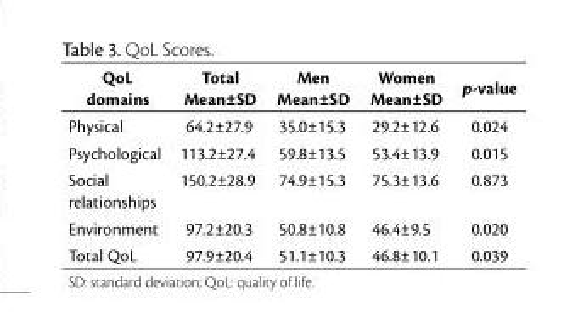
<table><thead><tr><td>QoL domains</td><td>Total Mean±SD</td><td>Men Mean±SD</td><td>Women Mean±SD</td><td>p-value</td></tr></thead><tbody><tr><td>Physical</td><td>64.2±27.9</td><td>35.0±15.3</td><td>29.2±12.6</td><td>0.024</td></tr><tr><td>Psychological</td><td>113.2±27.4</td><td>59.8±13.5</td><td>53.4±13.9</td><td>0.015</td></tr><tr><td>Social relationships</td><td>150.2±28.9</td><td>74.9±15.3</td><td>75.3±13.6</td><td>0.873</td></tr><tr><td>Environment</td><td>97.2±20.3</td><td>50.8±10.8</td><td>46.4±9.5</td><td>0.020</td></tr><tr><td>Total QoL</td><td>97.9±20.4</td><td>51.1±10.3</td><td>46.8±10.1</td><td>0.039</td></tr></tbody></table>